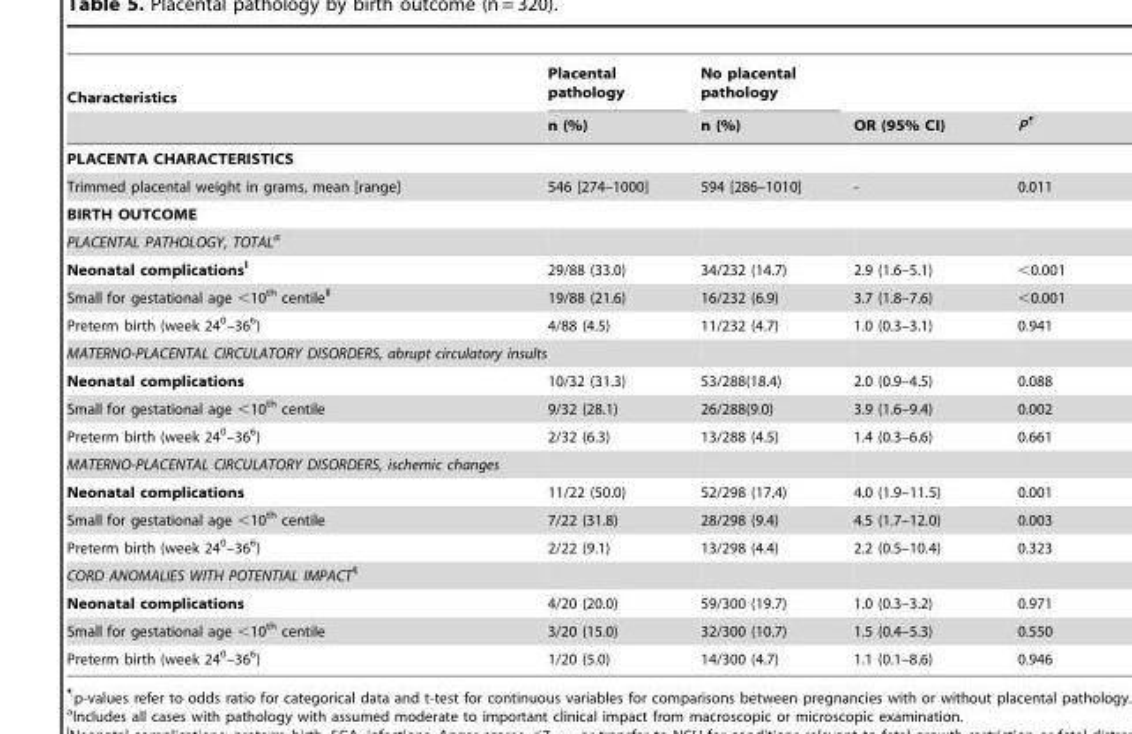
<table><thead><tr><td rowspan="2">Characteristics</td><td rowspan="2">Placental pathology n (%)</td><td rowspan="2">No placental pathology n (%)</td><td rowspan="2">OR (95% CI)</td><td rowspan="2">P¶</td></tr><tr></tr></thead><tbody><tr><td colspan="5">PLACENTA CHARACTERISTICS</td></tr><tr><td>Trimmed placental weight in grams, mean [range]</td><td>546 [274–1000]</td><td>594 [286–1010]</td><td>-</td><td>0.011</td></tr><tr><td colspan="5">BIRTH OUTCOME</td></tr><tr><td colspan="5">PLACENTAL PATHOLOGY, TOTALa</td></tr><tr><td>Neonatal complicationsl</td><td>29/88 (33.0)</td><td>34/232 (14.7)</td><td>2.9 (1.6–5.1)</td><td>&lt;0.001</td></tr><tr><td>Small for gestational age &lt;10<sup>th</sup> centile<sup>ll</sup></td><td>19/88 (21.6)</td><td>16/232 (6.9)</td><td>3.7 (1.8–7.6)</td><td>&lt;0.001</td></tr><tr><td>Preterm birth (week 24<sup>0</sup>–36<sup>6</sup>)</td><td>4/88 (4.5)</td><td>11/232 (4.7)</td><td>1.0 (0.3–3.1)</td><td>0.941</td></tr><tr><td colspan="5">MATERNO-PLACENTAL CIRCULATORY DISORDERS, abrupt circulatory insults</td></tr><tr><td>Neonatal complications</td><td>10/32 (31.3)</td><td>53/288(18.4)</td><td>2.0 (0.9–4.5)</td><td>0.088</td></tr><tr><td>Small for gestational age &lt;10<sup>th</sup> centile</td><td>9/32 (28.1)</td><td>26/288(9.0)</td><td>3.9 (1.6–9.4)</td><td>0.002</td></tr><tr><td>Preterm birth (week 24<sup>0</sup>–36<sup>6</sup>)</td><td>2/32 (6.3)</td><td>13/288 (4.5)</td><td>1.4 (0.3–6.6)</td><td>0.661</td></tr><tr><td colspan="5">MATERNO-PLACENTAL CIRCULATORY DISORDERS, ischemic changes</td></tr><tr><td>Neonatal complications</td><td>11/22 (50.0)</td><td>52/298 (17.4)</td><td>4.0 (1.9–11.5)</td><td>0.001</td></tr><tr><td>Small for gestational age &lt;10<sup>th</sup> centile</td><td>7/22 (31.8)</td><td>28/298 (9.4)</td><td>4.5 (1.7–12.0)</td><td>0.003</td></tr><tr><td>Preterm birth (week 24<sup>0</sup>–36<sup>6</sup>)</td><td>2/22 (9.1)</td><td>13/298 (4.4)</td><td>2.2 (0.5–10.4)</td><td>0.323</td></tr><tr><td colspan="5">CORD ANOMALIES WITH POTENTIAL IMPACT§</td></tr><tr><td>Neonatal complications</td><td>4/20 (20.0)</td><td>59/300 (19.7)</td><td>1.0 (0.3–3.2)</td><td>0.971</td></tr><tr><td>Small for gestational age &lt;10<sup>th</sup> centile</td><td>3/20 (15.0)</td><td>32/300 (10.7)</td><td>1.5 (0.4–5.3)</td><td>0.550</td></tr><tr><td>Preterm birth (week 24<sup>0</sup>–36<sup>6</sup>)</td><td>1/20 (5.0)</td><td>14/300 (4.7)</td><td>1.1 (0.1–8.6)</td><td>0.946</td></tr></tbody></table>